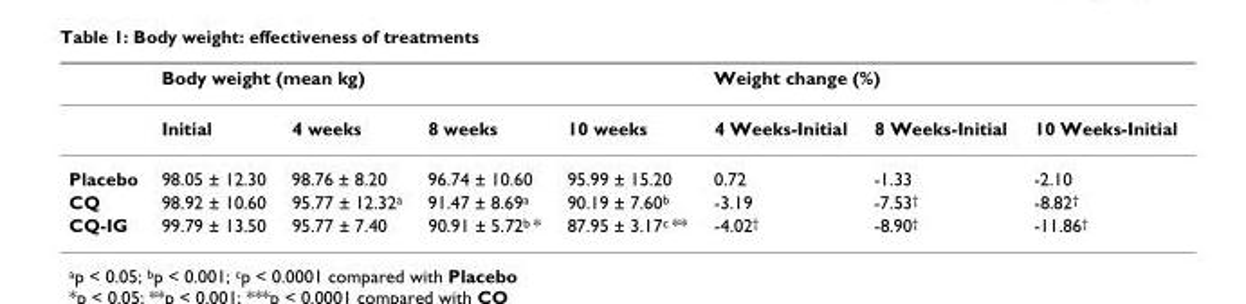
<table><thead><tr><td rowspan="2"></td><td colspan="4">Body weight (mean kg)</td><td colspan="3">Weight change (%)</td></tr><tr><td>Initial</td><td>4 weeks</td><td>8 weeks</td><td>10 weeks</td><td>4 Weeks-Initial</td><td>8 Weeks-Initial</td><td>10 Weeks-Initial</td></tr></thead><tbody><tr><td>Placebo</td><td>98.05 ± 12.30</td><td>98.76 ± 8.20</td><td>96.74 ± 10.60</td><td>95.99 ± 15.20</td><td>0.72</td><td>-1.33</td><td>-2.10</td></tr><tr><td>CQ</td><td>98.92 ± 10.60</td><td>95.77 ± 12.32<sup>a</sup></td><td>91.47 ± 8.69<sup>a</sup></td><td>90.19 ± 7.60<sup>b</sup></td><td>-3.19</td><td>-7.53<sup>†</sup></td><td>-8.82<sup>†</sup></td></tr><tr><td>CQ-IG</td><td>99.79 ± 13.50</td><td>95.77 ± 7.40</td><td>90.91 ± 5.72<sup>b</sup> *</td><td>87.95 ± 3.17<sup>c</sup> **</td><td>-4.02<sup>†</sup></td><td>-8.90<sup>†</sup></td><td>-11.86<sup>†</sup></td></tr></tbody></table>